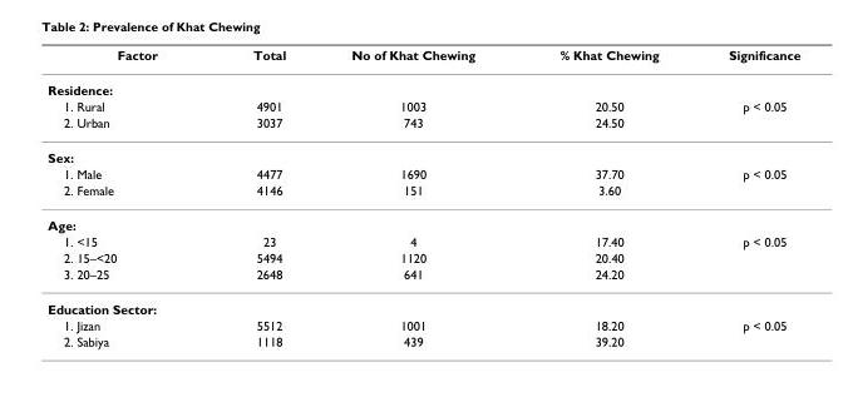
<table><thead><tr><td>Factor</td><td>Total</td><td>No of Khat Chewing</td><td>% Khat Chewing</td><td>Significance</td></tr></thead><tbody><tr><td colspan="5">Residence:</td></tr><tr><td>1. Rural</td><td>4901</td><td>1003</td><td>20.50</td><td>p &lt; 0.05</td></tr><tr><td>2. Urban</td><td>3037</td><td>743</td><td>24.50</td><td></td></tr><tr><td colspan="5">Sex:</td></tr><tr><td>1. Male</td><td>4477</td><td>1690</td><td>37.70</td><td>p &lt; 0.05</td></tr><tr><td>2. Female</td><td>4146</td><td>151</td><td>3.60</td><td></td></tr><tr><td colspan="5">Age:</td></tr><tr><td>1. &lt;15</td><td>23</td><td>4</td><td>17.40</td><td>p &lt; 0.05</td></tr><tr><td>2. 15–&lt;20</td><td>5494</td><td>1120</td><td>20.40</td><td></td></tr><tr><td>3. 20–25</td><td>2648</td><td>641</td><td>24.20</td><td></td></tr><tr><td colspan="5">Education Sector:</td></tr><tr><td>1. Jizan</td><td>5512</td><td>1001</td><td>18.20</td><td>p &lt; 0.05</td></tr><tr><td>2. Sabiya</td><td>1118</td><td>439</td><td>39.20</td><td></td></tr></tbody></table>